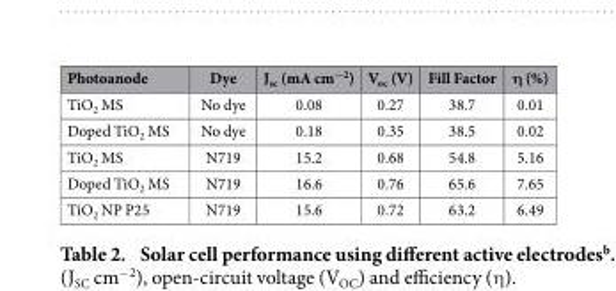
<table><thead><tr><td>Photoanode</td><td>Dye</td><td>J<sub>sc</sub> (mA cm<sup>−2</sup>)</td><td>V<sub>oc</sub> (V)</td><td>Fill Factor</td><td>η (%)</td></tr></thead><tbody><tr><td>TiO<sub>2</sub> MS</td><td>No dye</td><td>0.08</td><td>0.27</td><td>38.7</td><td>0.01</td></tr><tr><td>Doped TiO<sub>2</sub> MS</td><td>No dye</td><td>0.18</td><td>0.35</td><td>38.5</td><td>0.02</td></tr><tr><td>TiO<sub>2</sub> MS</td><td>N719</td><td>15.2</td><td>0.68</td><td>54.8</td><td>5.16</td></tr><tr><td>Doped TiO<sub>2</sub> MS</td><td>N719</td><td>16.6</td><td>0.76</td><td>65.6</td><td>7.65</td></tr><tr><td>TiO<sub>2</sub> NP P25</td><td>N719</td><td>15.6</td><td>0.72</td><td>63.2</td><td>6.49</td></tr></tbody></table>